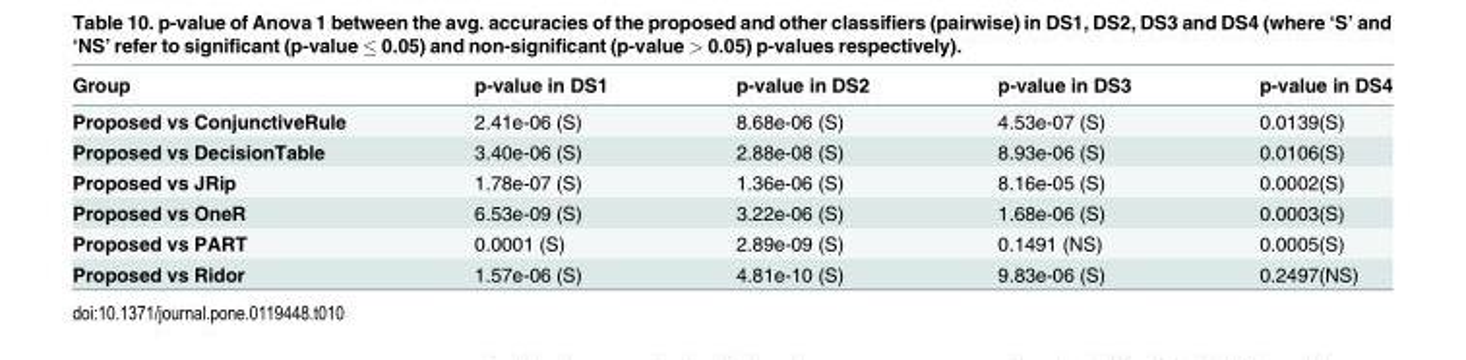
<table><thead><tr><td>Group</td><td>p-value in DS1</td><td>p-value in DS2</td><td>p-value in DS3</td><td>p-value in DS4</td></tr></thead><tbody><tr><td>Proposed vs ConjunctiveRule</td><td>2.41e-06 (S)</td><td>8.68e-06 (S)</td><td>4.53e-07 (S)</td><td>0.0139(S)</td></tr><tr><td>Proposed vs DecisionTable</td><td>3.40e-06 (S)</td><td>2.88e-08 (S)</td><td>8.93e-06 (S)</td><td>0.0106(S)</td></tr><tr><td>Proposed vs JRip</td><td>1.78e-07 (S)</td><td>1.36e-06 (S)</td><td>8.16e-05 (S)</td><td>0.0002(S)</td></tr><tr><td>Proposed vs OneR</td><td>6.53e-09 (S)</td><td>3.22e-06 (S)</td><td>1.68e-06 (S)</td><td>0.0003(S)</td></tr><tr><td>Proposed vs PART</td><td>0.0001 (S)</td><td>2.89e-09 (S)</td><td>0.1491 (NS)</td><td>0.0005(S)</td></tr><tr><td>Proposed vs Ridor</td><td>1.57e-06 (S)</td><td>4.81e-10 (S)</td><td>9.83e-06 (S)</td><td>0.2497(NS)</td></tr></tbody></table>